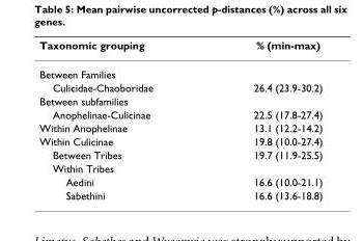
<table><thead><tr><td>Taxonomic grouping</td><td>% (min-max)</td></tr></thead><tbody><tr><td colspan="2">Between Families</td></tr><tr><td>Culicidae-Chaoboridae</td><td>26.4 (23.9-30.2)</td></tr><tr><td colspan="2">Between subfamilies</td></tr><tr><td>Anophelinae-Culicinae</td><td>22.5 (17.8-27.4)</td></tr><tr><td>Within Anophelinae</td><td>13.1 (12.2-14.2)</td></tr><tr><td>Within Culicinae</td><td>19.8 (10.0-27.4)</td></tr><tr><td>Between Tribes</td><td>19.7 (11.9-25.5)</td></tr><tr><td colspan="2">Within Tribes</td></tr><tr><td>Aedini</td><td>16.6 (10.0-21.1)</td></tr><tr><td>Sabethini</td><td>16.6 (13.6-18.8)</td></tr></tbody></table>